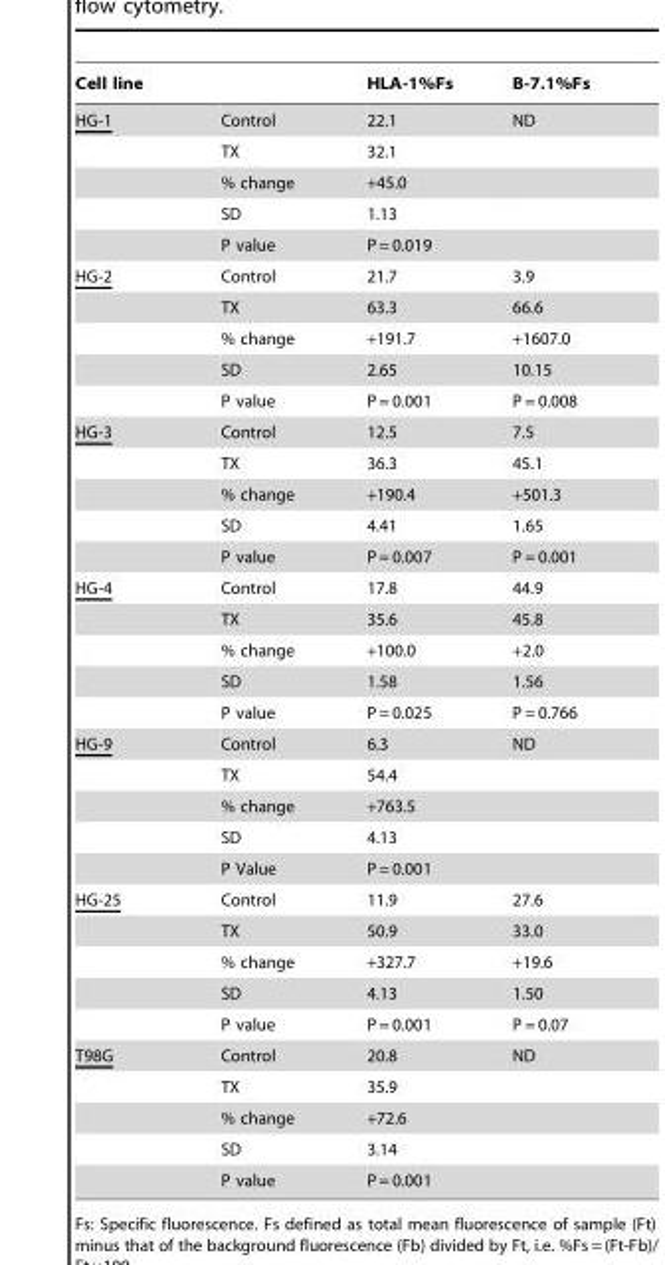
<table><thead><tr><td>Cell line</td><td></td><td>HLA-1%Fs</td><td>B-7.1%Fs</td></tr></thead><tbody><tr><td rowspan="5">HG-1</td><td>Control</td><td>22.1</td><td>ND</td></tr><tr><td>TX</td><td>32.1</td><td></td></tr><tr><td>% change</td><td>+45.0</td><td></td></tr><tr><td>SD</td><td>1.13</td><td></td></tr><tr><td>P value</td><td>P = 0.019</td><td></td></tr><tr><td rowspan="5">HG-2</td><td>Control</td><td>21.7</td><td>3.9</td></tr><tr><td>TX</td><td>63.3</td><td>66.6</td></tr><tr><td>% change</td><td>+191.7</td><td>+1607.0</td></tr><tr><td>SD</td><td>2.65</td><td>10.15</td></tr><tr><td>P value</td><td>P = 0.001</td><td>P = 0.008</td></tr><tr><td rowspan="5">HG-3</td><td>Control</td><td>12.5</td><td>7.5</td></tr><tr><td>TX</td><td>36.3</td><td>45.1</td></tr><tr><td>% change</td><td>+190.4</td><td>+501.3</td></tr><tr><td>SD</td><td>4.41</td><td>1.65</td></tr><tr><td>P value</td><td>P = 0.007</td><td>P = 0.001</td></tr><tr><td rowspan="5">HG-4</td><td>Control</td><td>17.8</td><td>44.9</td></tr><tr><td>TX</td><td>35.6</td><td>45.8</td></tr><tr><td>% change</td><td>+100.0</td><td>+2.0</td></tr><tr><td>SD</td><td>1.58</td><td>1.56</td></tr><tr><td>P value</td><td>P = 0.025</td><td>P = 0.766</td></tr><tr><td rowspan="5">HG-9</td><td>Control</td><td>6.3</td><td>ND</td></tr><tr><td>TX</td><td>54.4</td><td></td></tr><tr><td>% change</td><td>+763.5</td><td></td></tr><tr><td>SD</td><td>4.13</td><td></td></tr><tr><td>P Value</td><td>P = 0.001</td><td></td></tr><tr><td rowspan="5">HG-25</td><td>Control</td><td>11.9</td><td>27.6</td></tr><tr><td>TX</td><td>50.9</td><td>33.0</td></tr><tr><td>% change</td><td>+327.7</td><td>+19.6</td></tr><tr><td>SD</td><td>4.13</td><td>1.50</td></tr><tr><td>P value</td><td>P = 0.001</td><td>P = 0.07</td></tr><tr><td rowspan="5">T98G</td><td>Control</td><td>20.8</td><td>ND</td></tr><tr><td>TX</td><td>35.9</td><td></td></tr><tr><td>% change</td><td>+72.6</td><td></td></tr><tr><td>SD</td><td>3.14</td><td></td></tr><tr><td>P value</td><td>P = 0.001</td><td></td></tr></tbody></table>